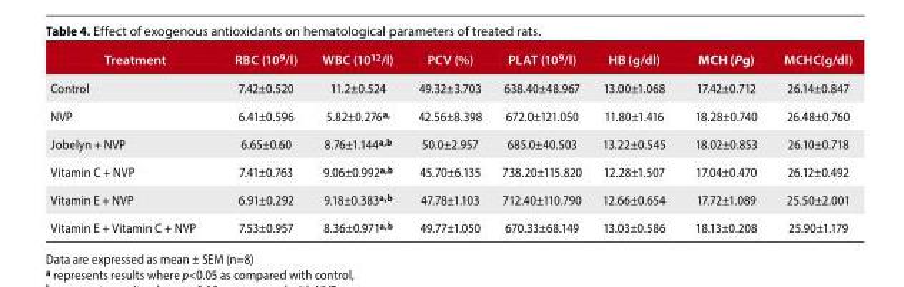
<table><thead><tr><td>Treatment</td><td>RBC (10<sup>9</sup>/l)</td><td>WBC (10<sup>12</sup>/l)</td><td>PCV (%)</td><td>PLAT (10<sup>9</sup>/l)</td><td>HB (g/dl)</td><td>MCH (Pg)</td><td>MCHC(g/dl)</td></tr></thead><tbody><tr><td>Control</td><td>7.42±0.520</td><td>11.2±0.524</td><td>49.32±3.703</td><td>638.40±48.967</td><td>13.00±1.068</td><td>17.42±0.712</td><td>26.14±0.847</td></tr><tr><td>NVP</td><td>6.41±0.596</td><td>5.82±0.276<sup>a,</sup></td><td>42.56±8.398</td><td>672.0±121.050</td><td>11.80±1.416</td><td>18.28±0.740</td><td>26.48±0.760</td></tr><tr><td>Jobelyn + NVP</td><td>6.65±0.60</td><td>8.76±1.144<sup>a,b</sup></td><td>50.0±2.957</td><td>685.0±40.503</td><td>13.22±0.545</td><td>18.02±0.853</td><td>26.10±0.718</td></tr><tr><td>Vitamin C + NVP</td><td>7.41±0.763</td><td>9.06±0.992<sup>a,b</sup></td><td>45.70±6.135</td><td>738.20±115.820</td><td>12.28±1.507</td><td>17.04±0.470</td><td>26.12±0.492</td></tr><tr><td>Vitamin E + NVP</td><td>6.91±0.292</td><td>9.18±0.383<sup>a,b</sup></td><td>47.78±1.103</td><td>712.40±110.790</td><td>12.66±0.654</td><td>17.72±1.089</td><td>25.50±2.001</td></tr><tr><td>Vitamin E + Vitamin C + NVP</td><td>7.53±0.957</td><td>8.36±0.971<sup>a,b</sup></td><td>49.77±1.050</td><td>670.33±68.149</td><td>13.03±0.586</td><td>18.13±0.208</td><td>25.90±1.179</td></tr></tbody></table>